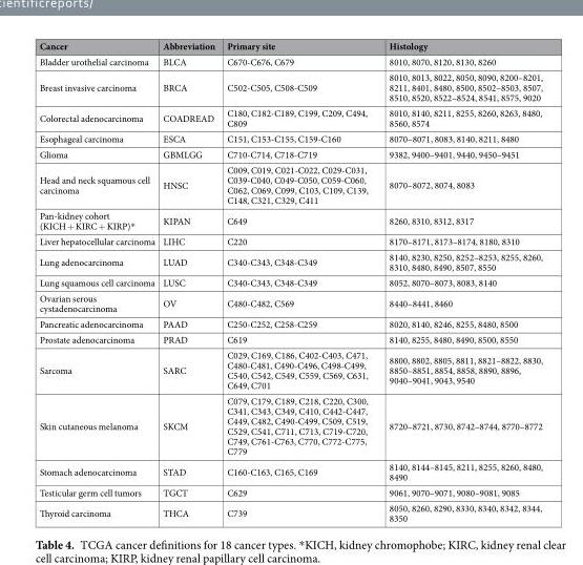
<table><thead><tr><td>Cancer</td><td>Abbreviation</td><td>Primary site</td><td>Histology</td></tr></thead><tbody><tr><td>Bladder urothelial carcinoma</td><td>BLCA</td><td>C670-C676, C679</td><td>8010, 8070, 8120, 8130, 8260</td></tr><tr><td>Breast invasive carcinoma</td><td>BRCA</td><td>C502-C505, C508-C509</td><td>8010, 8013, 8022, 8050, 8090, 8200–8201, 8211, 8401, 8480, 8500, 8502–8503, 8507, 8510, 8520, 8522–8524, 8541, 8575, 9020</td></tr><tr><td>Colorectal adenocarcinoma</td><td>COADREAD</td><td>C180, C182-C189, C199, C209, C494, C809</td><td>8010, 8140, 8211, 8255, 8260, 8263, 8480, 8560, 8574</td></tr><tr><td>Esophageal carcinoma</td><td>ESCA</td><td>C151, C153-C155, C159-C160</td><td>8070–8071, 8083, 8140, 8211, 8480</td></tr><tr><td>Glioma</td><td>GBMLGG</td><td>C710-C714, C718-C719</td><td>9382, 9400–9401, 9440, 9450–9451</td></tr><tr><td>Head and neck squamous cell carcinoma</td><td>HNSC</td><td>C009, C019, C021-C022, C029-C031, C039-C040, C049-C050, C059-C060, C062, C069, C099, C103, C109, C139, C148, C321, C329, C411</td><td>8070–8072, 8074, 8083</td></tr><tr><td>Pan-kidney cohort (KICH + KIRC + KIRP)*</td><td>KIPAN</td><td>C649</td><td>8260, 8310, 8312, 8317</td></tr><tr><td>Liver hepatocellular carcinoma</td><td>LIHC</td><td>C220</td><td>8170–8171, 8173–8174, 8180, 8310</td></tr><tr><td>Lung adenocarcinoma</td><td>LUAD</td><td>C340-C343, C348-C349</td><td>8140, 8230, 8250, 8252–8253, 8255, 8260, 8310, 8480, 8490, 8507, 8550</td></tr><tr><td>Lung squamous cell carcinoma</td><td>LUSC</td><td>C340-C343, C348-C349</td><td>8052, 8070–8073, 8083, 8140</td></tr><tr><td>Ovarian serous cystadenocarcinoma</td><td>OV</td><td>C480-C482, C569</td><td>8440–8441, 8460</td></tr><tr><td>Pancreatic adenocarcinoma</td><td>PAAD</td><td>C250-C252, C258-C259</td><td>8020, 8140, 8246, 8255, 8480, 8500</td></tr><tr><td>Prostate adenocarcinoma</td><td>PRAD</td><td>C619</td><td>8140, 8255, 8480, 8490, 8500, 8550</td></tr><tr><td>Sarcoma</td><td>SARC</td><td>C029, C169, C186, C402-C403, C471, C480-C481, C490-C496, C498-C499, C540, C542, C549, C559, C569, C631, C649, C701</td><td>8800, 8802, 8805, 8811, 8821–8822, 8830, 8850–8851, 8854, 8858, 8890, 8896, 9040–9041, 9043, 9540</td></tr><tr><td>Skin cutaneous melanoma</td><td>SKCM</td><td>C079, C179, C189, C218, C220, C300, C341, C343, C349, C410, C442-C447, C449, C482, C490-C499, C509, C519, C529, C541, C711, C713, C719-C720, C749, C761-C763, C770, C772-C775, C779</td><td>8720–8721, 8730, 8742–8744, 8770–8772</td></tr><tr><td>Stomach adenocarcinoma</td><td>STAD</td><td>C160-C163, C165, C169</td><td>8140, 8144–8145, 8211, 8255, 8260, 8480, 8490</td></tr><tr><td>Testicular germ cell tumors</td><td>TGCT</td><td>C629</td><td>9061, 9070–9071, 9080–9081, 9085</td></tr><tr><td>Thyroid carcinoma</td><td>THCA</td><td>C739</td><td>8050, 8260, 8290, 8330, 8340, 8342, 8344, 8350</td></tr></tbody></table>